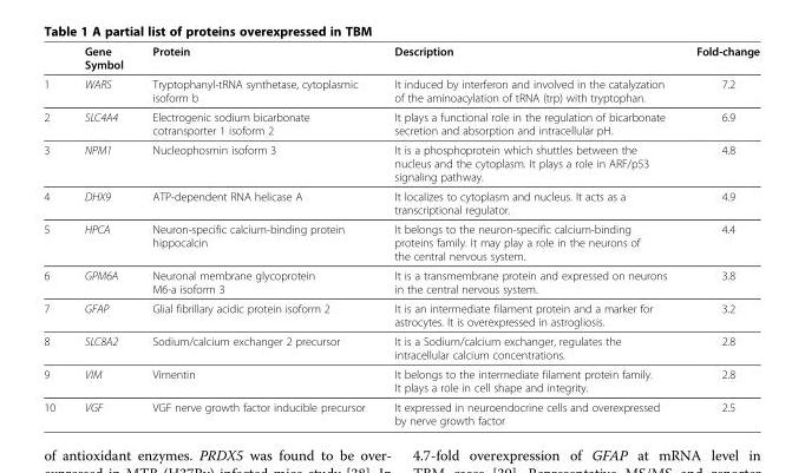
<table><thead><tr><td></td><td>Gene Symbol</td><td>Protein</td><td>Description</td><td>Fold-change</td></tr></thead><tbody><tr><td>1</td><td>WARS</td><td>Tryptophanyl-tRNA synthetase, cytoplasmic isoform b</td><td>It induced by interferon and involved in the catalyzation of the aminoacylation of tRNA (trp) with tryptophan.</td><td>7.2</td></tr><tr><td>2</td><td>SLC4A4</td><td>Electrogenic sodium bicarbonate cotransporter 1 isoform 2</td><td>It plays a functional role in the regulation of bicarbonate secretion and absorption and intracellular pH.</td><td>6.9</td></tr><tr><td>3</td><td>NPM1</td><td>Nucleophosmin isoform 3</td><td>It is a phosphoprotein which shuttles between the nucleus and the cytoplasm. It plays a role in ARF/p53 signaling pathway.</td><td>4.8</td></tr><tr><td>4</td><td>DHX9</td><td>ATP-dependent RNA helicase A</td><td>It localizes to cytoplasm and nucleus. It acts as a transcriptional regulator.</td><td>4.9</td></tr><tr><td>5</td><td>HPCA</td><td>Neuron-specific calcium-binding protein hippocalcin</td><td>It belongs to the neuron-specific calcium-binding proteins family. It may play a role in the neurons of the central nervous system.</td><td>4.4</td></tr><tr><td>6</td><td>GPM6A</td><td>Neuronal membrane glycoprotein M6-a isoform 3</td><td>It is a transmembrane protein and expressed on neurons in the central nervous system.</td><td>3.8</td></tr><tr><td>7</td><td>GFAP</td><td>Glial fibrillary acidic protein isoform 2</td><td>It is an intermediate filament protein and a marker for astrocytes. It is overexpressed in astrogliosis.</td><td>3.2</td></tr><tr><td>8</td><td>SLC8A2</td><td>Sodium/calcium exchanger 2 precursor</td><td>It is a Sodium/calcium exchanger, regulates the intracellular calcium concentrations.</td><td>2.8</td></tr><tr><td>9</td><td>VIM</td><td>Vimentin</td><td>It belongs to the intermediate filament protein family. It plays a role in cell shape and integrity.</td><td>2.8</td></tr><tr><td>10</td><td>VGF</td><td>VGF nerve growth factor inducible precursor</td><td>It expressed in neuroendocrine cells and overexpressed by nerve growth factor</td><td>2.5</td></tr></tbody></table>